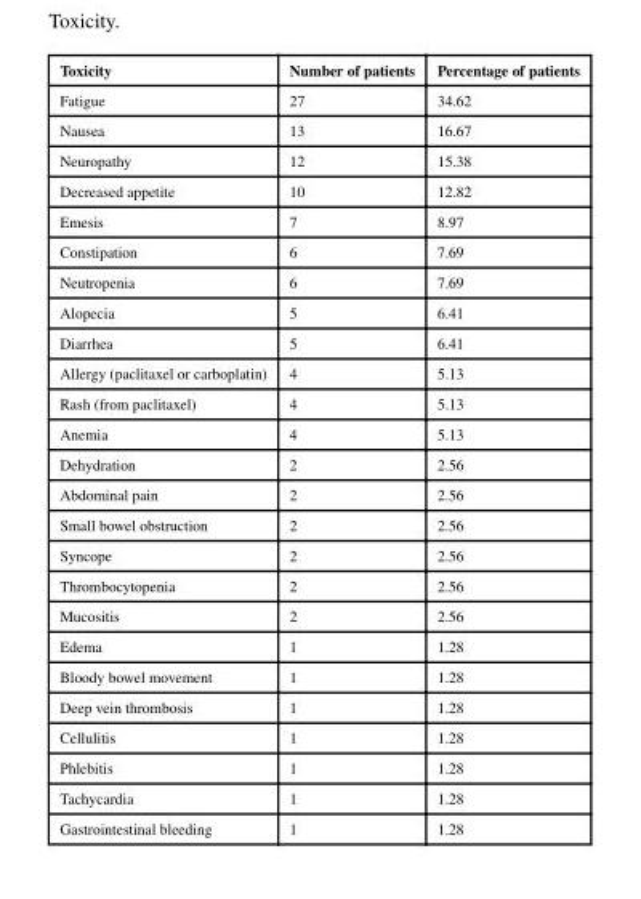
<table><thead><tr><td>Toxicity</td><td>Number of patients</td><td>Percentage of patients</td></tr></thead><tbody><tr><td>Fatigue</td><td>27</td><td>34.62</td></tr><tr><td>Nausea</td><td>13</td><td>16.67</td></tr><tr><td>Neuropathy</td><td>12</td><td>15.38</td></tr><tr><td>Decreased appetite</td><td>10</td><td>12.82</td></tr><tr><td>Emesis</td><td>7</td><td>8.97</td></tr><tr><td>Constipation</td><td>6</td><td>7.69</td></tr><tr><td>Neutropenia</td><td>6</td><td>7.69</td></tr><tr><td>Alopecia</td><td>5</td><td>6.41</td></tr><tr><td>Diarrhea</td><td>5</td><td>6.41</td></tr><tr><td>Allergy (paclitaxel or carboplatin)</td><td>4</td><td>5.13</td></tr><tr><td>Rash (from paclitaxel)</td><td>4</td><td>5.13</td></tr><tr><td>Anemia</td><td>4</td><td>5.13</td></tr><tr><td>Dehydration</td><td>2</td><td>2.56</td></tr><tr><td>Abdominal pain</td><td>2</td><td>2.56</td></tr><tr><td>Small bowel obstruction</td><td>2</td><td>2.56</td></tr><tr><td>Syncope</td><td>2</td><td>2.56</td></tr><tr><td>Thrombocytopenia</td><td>2</td><td>2.56</td></tr><tr><td>Mucositis</td><td>2</td><td>2.56</td></tr><tr><td>Edema</td><td>1</td><td>1.28</td></tr><tr><td>Bloody bowel movement</td><td>1</td><td>1.28</td></tr><tr><td>Deep vein thrombosis</td><td>1</td><td>1.28</td></tr><tr><td>Cellulitis</td><td>1</td><td>1.28</td></tr><tr><td>Phlebitis</td><td>1</td><td>1.28</td></tr><tr><td>Tachycardia</td><td>1</td><td>1.28</td></tr><tr><td>Gastrointestinal bleeding</td><td>1</td><td>1.28</td></tr></tbody></table>